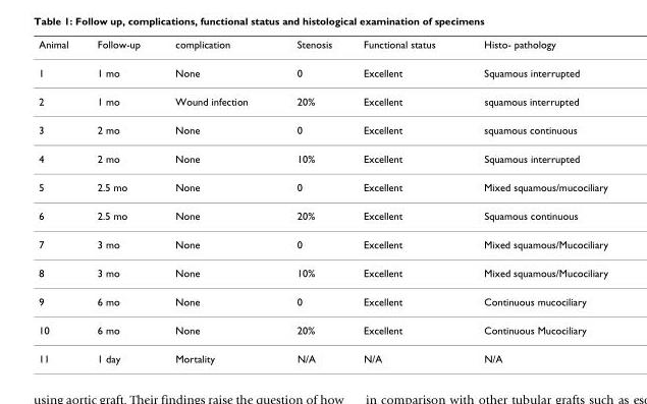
<table><thead><tr><td>Animal</td><td>Follow-up</td><td>complication</td><td>Stenosis</td><td>Functional status</td><td>Histo- pathology</td></tr></thead><tbody><tr><td>1</td><td>1 mo</td><td>None</td><td>0</td><td>Excellent</td><td>Squamous interrupted</td></tr><tr><td>2</td><td>1 mo</td><td>Wound infection</td><td>20%</td><td>Excellent</td><td>squamous interrupted</td></tr><tr><td>3</td><td>2 mo</td><td>None</td><td>0</td><td>Excellent</td><td>squamous continuous</td></tr><tr><td>4</td><td>2 mo</td><td>None</td><td>10%</td><td>Excellent</td><td>Squamous interrupted</td></tr><tr><td>5</td><td>2.5 mo</td><td>None</td><td>0</td><td>Excellent</td><td>Mixed squamous/mucociliary</td></tr><tr><td>6</td><td>2.5 mo</td><td>None</td><td>20%</td><td>Excellent</td><td>Squamous continuous</td></tr><tr><td>7</td><td>3 mo</td><td>None</td><td>0</td><td>Excellent</td><td>Mixed squamous/Mucociliary</td></tr><tr><td>8</td><td>3 mo</td><td>None</td><td>10%</td><td>Excellent</td><td>Mixed squamous/Mucociliary</td></tr><tr><td>9</td><td>6 mo</td><td>None</td><td>0</td><td>Excellent</td><td>Continuous mucociliary</td></tr><tr><td>10</td><td>6 mo</td><td>None</td><td>20%</td><td>Excellent</td><td>Continuous Mucociliary</td></tr><tr><td>11</td><td>1 day</td><td>Mortality</td><td>N/A</td><td>N/A</td><td>N/A</td></tr></tbody></table>